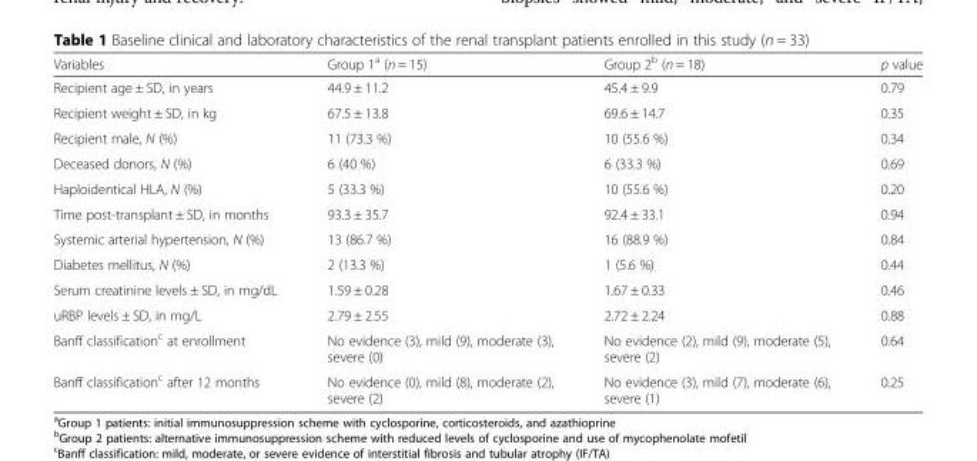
<table><thead><tr><td>Variables</td><td>Group 1<sup>a</sup> (n = 15)</td><td>Group 2<sup>b</sup> (n = 18)</td><td>p value</td></tr></thead><tbody><tr><td>Recipient age ± SD, in years</td><td>44.9 ± 11.2</td><td>45.4 ± 9.9</td><td>0.79</td></tr><tr><td>Recipient weight ± SD, in kg</td><td>67.5 ± 13.8</td><td>69.6 ± 14.7</td><td>0.35</td></tr><tr><td>Recipient male, N (%)</td><td>11 (73.3 %)</td><td>10 (55.6 %)</td><td>0.34</td></tr><tr><td>Deceased donors, N (%)</td><td>6 (40 %)</td><td>6 (33.3 %)</td><td>0.69</td></tr><tr><td>Haploidentical HLA, N (%)</td><td>5 (33.3 %)</td><td>10 (55.6 %)</td><td>0.20</td></tr><tr><td>Time post-transplant ± SD, in months</td><td>93.3 ± 35.7</td><td>92.4 ± 33.1</td><td>0.94</td></tr><tr><td>Systemic arterial hypertension, N (%)</td><td>13 (86.7 %)</td><td>16 (88.9 %)</td><td>0.84</td></tr><tr><td>Diabetes mellitus, N (%)</td><td>2 (13.3 %)</td><td>1 (5.6 %)</td><td>0.44</td></tr><tr><td>Serum creatinine levels ± SD, in mg/dL</td><td>1.59 ± 0.28</td><td>1.67 ± 0.33</td><td>0.46</td></tr><tr><td>uRBP levels ± SD, in mg/L</td><td>2.79 ± 2.55</td><td>2.72 ± 2.24</td><td>0.88</td></tr><tr><td>Banff classification<sup>c</sup> at enrollment</td><td>No evidence (3), mild (9), moderate (3), severe (0)</td><td>No evidence (2), mild (9), moderate (5), severe (2)</td><td>0.64</td></tr><tr><td>Banff classification<sup>c</sup> after 12 months</td><td>No evidence (0), mild (8), moderate (2), severe (2)</td><td>No evidence (3), mild (7), moderate (6), severe (1)</td><td>0.25</td></tr></tbody></table>